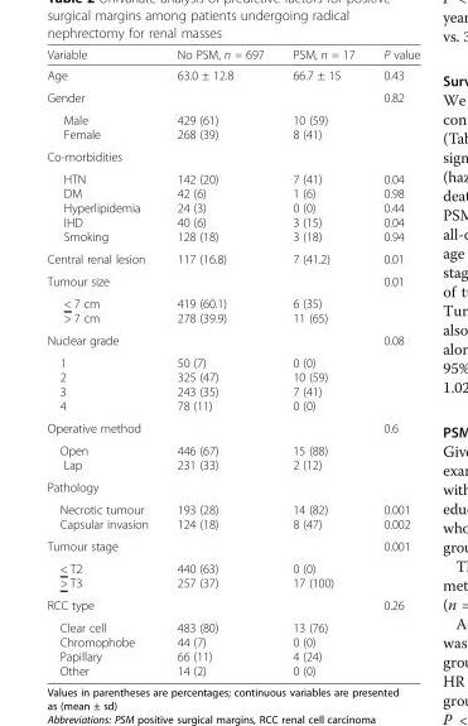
<table><thead><tr><td>Variable</td><td>No PSM, n = 697</td><td>PSM, n = 17</td><td>P value</td></tr></thead><tbody><tr><td>Age</td><td>63.0 ± 12.8</td><td>66.7 ± 15</td><td>0.43</td></tr><tr><td colspan="3">Gender</td><td rowspan="2">0.82</td></tr><tr><td>Male Female</td><td>429 (61) 268 (39)</td><td>10 (59) 8 (41)</td></tr><tr><td colspan="4">Co-morbidities</td></tr><tr><td>HTN DM Hyperlipidemia IHD Smoking</td><td>142 (20) 42 (6) 24 (3) 40 (6) 128 (18)</td><td>7 (41) 1 (6) 0 (0) 3 (15) 3 (18)</td><td>0.04 0.98 0.44 0.04 0.94</td></tr><tr><td>Central renal lesion</td><td>117 (16.8)</td><td>7 (41.2)</td><td>0.01</td></tr><tr><td colspan="3">Tumour size</td><td rowspan="2">0.01</td></tr><tr><td>&lt; 7 cm &gt; 7 cm</td><td>419 (60.1) 278 (39.9)</td><td>6 (35) 11 (65)</td></tr><tr><td colspan="3">Nuclear grade</td><td rowspan="2">0.08</td></tr><tr><td>1 2 3 4</td><td>50 (7) 325 (47) 243 (35) 78 (11)</td><td>0 (0) 10 (59) 7 (41) 0 (0)</td></tr><tr><td colspan="3">Operative method</td><td rowspan="2">0.6</td></tr><tr><td>Open Lap</td><td>446 (67) 231 (33)</td><td>15 (88) 2 (12)</td></tr><tr><td colspan="4">Pathology</td></tr><tr><td>Necrotic tumour Capsular invasion</td><td>193 (28) 124 (18)</td><td>14 (82) 8 (47)</td><td>0.001 0.002</td></tr><tr><td colspan="3">Tumour stage</td><td rowspan="2">0.001</td></tr><tr><td>&lt; T2 &gt; T3</td><td>440 (63) 257 (37)</td><td>0 (0) 17 (100)</td></tr><tr><td colspan="3">RCC type</td><td rowspan="2">0.26</td></tr><tr><td>Clear cell Chromophobe Papillary Other</td><td>483 (80) 44 (7) 66 (11) 14 (2)</td><td>13 (76) 0 (0) 4 (24) 0 (0)</td></tr></tbody></table>